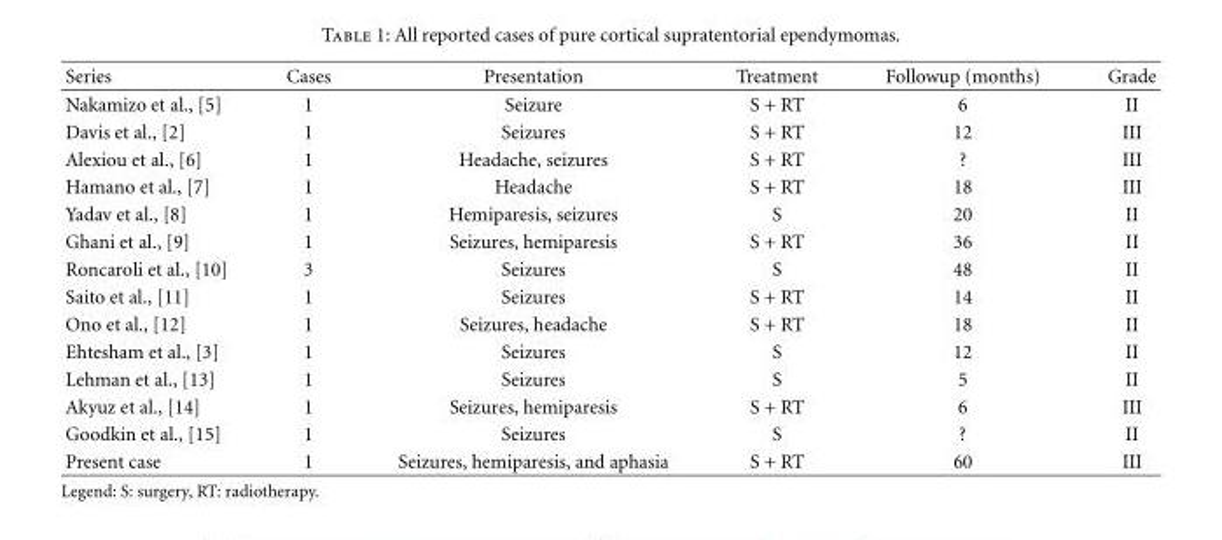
<table><thead><tr><td>Series</td><td>Cases</td><td>Presentation</td><td>Treatment</td><td>Followup (months)</td><td>Grade</td></tr></thead><tbody><tr><td>Nakamizo et al., [5]</td><td>1</td><td>Seizure</td><td>S + RT</td><td>6</td><td>II</td></tr><tr><td>Davis et al., [2]</td><td>1</td><td>Seizures</td><td>S + RT</td><td>12</td><td>III</td></tr><tr><td>Alexiou et al., [6]</td><td>1</td><td>Headache, seizures</td><td>S + RT</td><td>?</td><td>III</td></tr><tr><td>Hamano et al., [7]</td><td>1</td><td>Headache</td><td>S + RT</td><td>18</td><td>III</td></tr><tr><td>Yadav et al., [8]</td><td>1</td><td>Hemiparesis, seizures</td><td>S</td><td>20</td><td>II</td></tr><tr><td>Ghani et al., [9]</td><td>1</td><td>Seizures, hemiparesis</td><td>S + RT</td><td>36</td><td>II</td></tr><tr><td>Roncaroli et al., [10]</td><td>3</td><td>Seizures</td><td>S</td><td>48</td><td>II</td></tr><tr><td>Saito et al., [11]</td><td>1</td><td>Seizures</td><td>S + RT</td><td>14</td><td>II</td></tr><tr><td>Ono et al., [12]</td><td>1</td><td>Seizures, headache</td><td>S + RT</td><td>18</td><td>II</td></tr><tr><td>Ehtesham et al., [3]</td><td>1</td><td>Seizures</td><td>S</td><td>12</td><td>II</td></tr><tr><td>Lehman et al., [13]</td><td>1</td><td>Seizures</td><td>S</td><td>5</td><td>II</td></tr><tr><td>Akyuz et al., [14]</td><td>1</td><td>Seizures, hemiparesis</td><td>S + RT</td><td>6</td><td>III</td></tr><tr><td>Goodkin et al., [15]</td><td>1</td><td>Seizures</td><td>S</td><td>?</td><td>II</td></tr><tr><td>Present case</td><td>1</td><td>Seizures, hemiparesis, and aphasia</td><td>S + RT</td><td>60</td><td>III</td></tr></tbody></table>